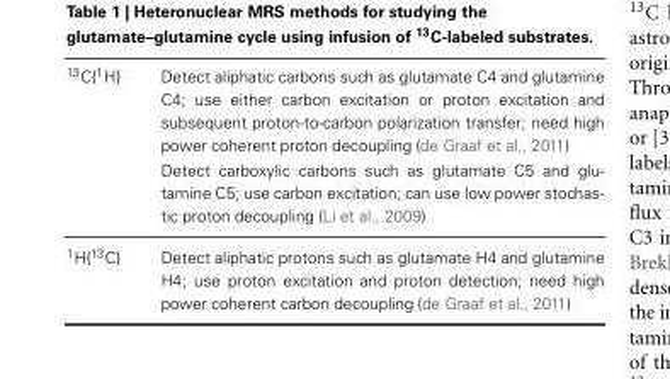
<table><tbody><tr><td rowspan="2"><sup>13</sup>C{<sup>1</sup>H}</td><td>Detect aliphatic carbons such as glutamate C4 and glutamine C4; use either carbon excitation or proton excitation and subsequent proton-to-carbon polarization transfer; need high power coherent proton decoupling (de Graaf et al., 2011)</td></tr><tr><td>Detect carboxylic carbons such as glutamate C5 and glu- tamine C5; use carbon excitation; can use low power stochas- tic proton decoupling (Li et al., 2009)</td></tr><tr><td><sup>1</sup>H{<sup>13</sup>C}</td><td>Detect aliphatic protons such as glutamate H4 and glutamine H4; use proton excitation and proton detection; need high power coherent carbon decoupling (de Graaf et al., 2011)</td></tr></tbody></table>